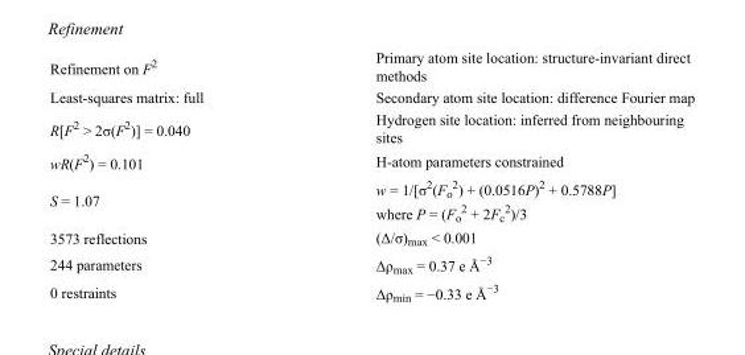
<table><tbody><tr><td>Refinement on F<sup>2</sup></td><td>Primary atom site location: structure-invariant direct methods</td></tr><tr><td>Least-squares matrix: full</td><td>Secondary atom site location: difference Fourier map</td></tr><tr><td>R[F<sup>2</sup> &gt; 2σ(F<sup>2</sup>)] = 0.040</td><td>Hydrogen site location: inferred from neighbouring sites</td></tr><tr><td>wR(F<sup>2</sup>) = 0.101</td><td>H-atom parameters constrained</td></tr><tr><td>S = 1.07</td><td>w = 1/[σ<sup>2</sup>(F<sub>o</sub> <sup>2</sup>) + (0.0516P)<sup>2</sup> + 0.5788P] where P = (F<sub>o</sub> <sup>2</sup> + 2F<sub>c</sub> <sup>2</sup>)/3</td></tr><tr><td>3573 reflections</td><td>(Δ/σ)<sub>max</sub> &lt; 0.001</td></tr><tr><td>244 parameters</td><td>Δρ<sub>max</sub> = 0.37 e Å<sup>−3</sup></td></tr><tr><td>0 restraints</td><td>Δρ<sub>min</sub> = −0.33 e Å<sup>−3</sup></td></tr></tbody></table>